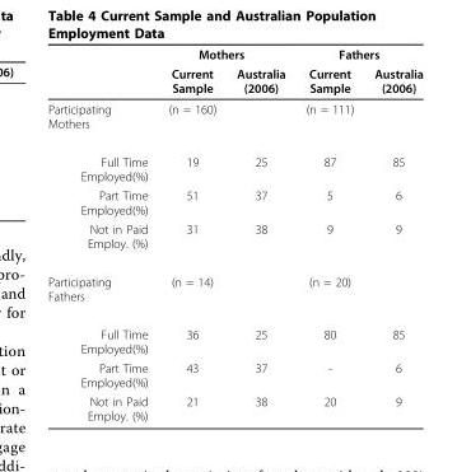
<table><thead><tr><td rowspan="2"></td><td colspan="2">Mothers</td><td colspan="2">Fathers</td></tr><tr><td>Current Sample</td><td>Australia (2006)</td><td>Current Sample</td><td>Australia (2006)</td></tr></thead><tbody><tr><td>Participating Mothers</td><td>(n = 160)</td><td></td><td>(n = 111)</td><td></td></tr><tr><td>Full Time Employed(%)</td><td>19</td><td>25</td><td>87</td><td>85</td></tr><tr><td>Part Time Employed(%)</td><td>51</td><td>37</td><td>5</td><td>6</td></tr><tr><td>Not in Paid Employ. (%)</td><td>31</td><td>38</td><td>9</td><td>9</td></tr><tr><td>Participating Fathers</td><td>(n = 14)</td><td></td><td>(n = 20)</td><td></td></tr><tr><td>Full Time Employed(%)</td><td>36</td><td>25</td><td>80</td><td>85</td></tr><tr><td>Part Time Employed(%)</td><td>43</td><td>37</td><td>-</td><td>6</td></tr><tr><td>Not in Paid Employ. (%)</td><td>21</td><td>38</td><td>20</td><td>9</td></tr></tbody></table>